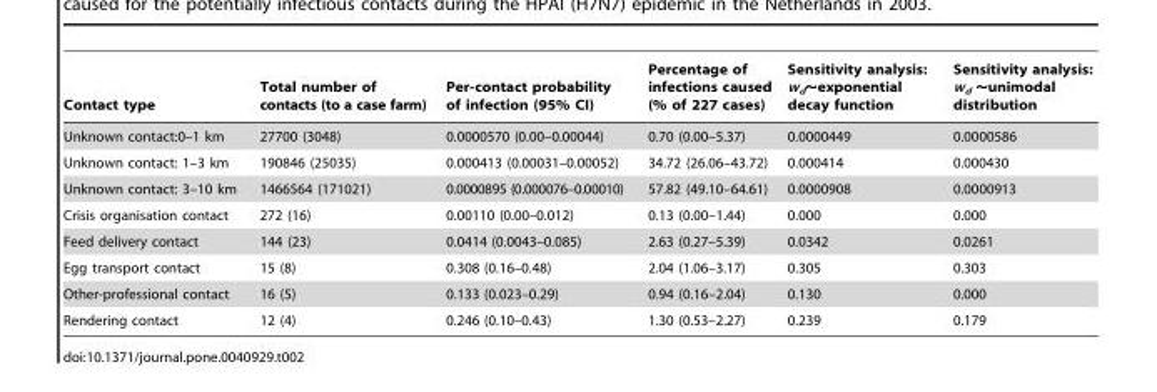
<table><thead><tr><td>Contact type</td><td>Total number of contacts (to a case farm)</td><td>Per-contact probability of infection (95% CI)</td><td>Percentage of infections caused (% of 227 cases)</td><td>Sensitivity analysis: w<sub>d</sub>∼exponential decay function</td><td>Sensitivity analysis: w<sub>d</sub> ∼unimodal distribution</td></tr></thead><tbody><tr><td>Unknown contact:0–1 km</td><td>27700 (3048)</td><td>0.0000570 (0.00–0.00044)</td><td>0.70 (0.00–5.37)</td><td>0.0000449</td><td>0.0000586</td></tr><tr><td>Unknown contact: 1–3 km</td><td>190846 (25035)</td><td>0.000413 (0.00031–0.00052)</td><td>34.72 (26.06–43.72)</td><td>0.000414</td><td>0.000430</td></tr><tr><td>Unknown contact: 3–10 km</td><td>1466564 (171021)</td><td>0.0000895 (0.000076–0.00010)</td><td>57.82 (49.10–64.61)</td><td>0.0000908</td><td>0.0000913</td></tr><tr><td>Crisis organisation contact</td><td>272 (16)</td><td>0.00110 (0.00–0.012)</td><td>0.13 (0.00–1.44)</td><td>0.000</td><td>0.000</td></tr><tr><td>Feed delivery contact</td><td>144 (23)</td><td>0.0414 (0.0043–0.085)</td><td>2.63 (0.27–5.39)</td><td>0.0342</td><td>0.0261</td></tr><tr><td>Egg transport contact</td><td>15 (8)</td><td>0.308 (0.16–0.48)</td><td>2.04 (1.06–3.17)</td><td>0.305</td><td>0.303</td></tr><tr><td>Other-professional contact</td><td>16 (5)</td><td>0.133 (0.023–0.29)</td><td>0.94 (0.16–2.04)</td><td>0.130</td><td>0.000</td></tr><tr><td>Rendering contact</td><td>12 (4)</td><td>0.246 (0.10–0.43)</td><td>1.30 (0.53–2.27)</td><td>0.239</td><td>0.179</td></tr></tbody></table>